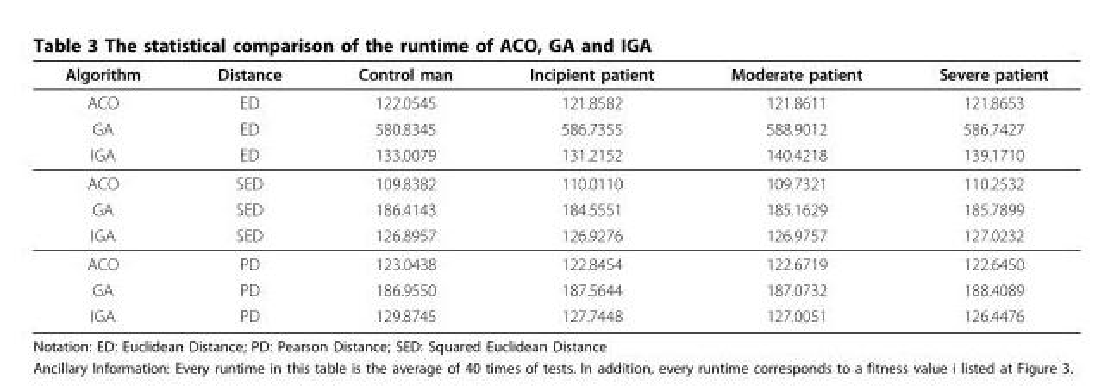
<table><thead><tr><td>Algorithm</td><td>Distance</td><td>Control man</td><td>Incipient patient</td><td>Moderate patient</td><td>Severe patient</td></tr></thead><tbody><tr><td>ACO</td><td>ED</td><td>122.0545</td><td>121.8582</td><td>121.8611</td><td>121.8653</td></tr><tr><td>GA</td><td>ED</td><td>580.8345</td><td>586.7355</td><td>588.9012</td><td>586.7427</td></tr><tr><td>IGA</td><td>ED</td><td>133.0079</td><td>131.2152</td><td>140.4218</td><td>139.1710</td></tr><tr><td>ACO</td><td>SED</td><td>109.8382</td><td>110.0110</td><td>109.7321</td><td>110.2532</td></tr><tr><td>GA</td><td>SED</td><td>186.4143</td><td>184.5551</td><td>185.1629</td><td>185.7899</td></tr><tr><td>IGA</td><td>SED</td><td>126.8957</td><td>126.9276</td><td>126.9757</td><td>127.0232</td></tr><tr><td>ACO</td><td>PD</td><td>123.0438</td><td>122.8454</td><td>122.6719</td><td>122.6450</td></tr><tr><td>GA</td><td>PD</td><td>186.9550</td><td>187.5644</td><td>187.0732</td><td>188.4089</td></tr><tr><td>IGA</td><td>PD</td><td>129.8745</td><td>127.7448</td><td>127.0051</td><td>126.4476</td></tr></tbody></table>